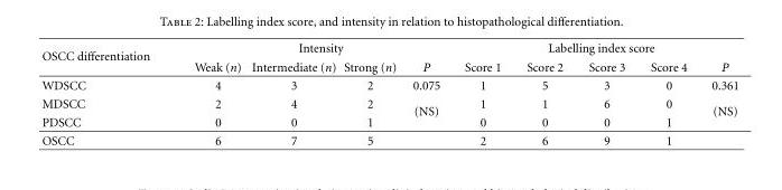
<table><thead><tr><td rowspan="2">OSCC differentiation</td><td colspan="4">Intensity</td><td colspan="5">Labelling index score</td></tr><tr><td>Weak (n)</td><td>Intermediate (n)</td><td>Strong (n)</td><td>P</td><td>Score 1</td><td>Score 2</td><td>Score 3</td><td>Score 4</td><td>P</td></tr></thead><tbody><tr><td>WDSCC</td><td>4</td><td>3</td><td>2</td><td>0.075</td><td>1</td><td>5</td><td>3</td><td>0</td><td>0.361</td></tr><tr><td>MDSCC</td><td>2</td><td>4</td><td>2</td><td rowspan="2">(NS)</td><td>1</td><td>1</td><td>6</td><td>0</td><td rowspan="2">(NS)</td></tr><tr><td>PDSCC</td><td>0</td><td>0</td><td>1</td><td>0</td><td>0</td><td>0</td><td>1</td></tr><tr><td>OSCC</td><td>6</td><td>7</td><td>5</td><td></td><td>2</td><td>6</td><td>9</td><td>1</td><td></td></tr></tbody></table>